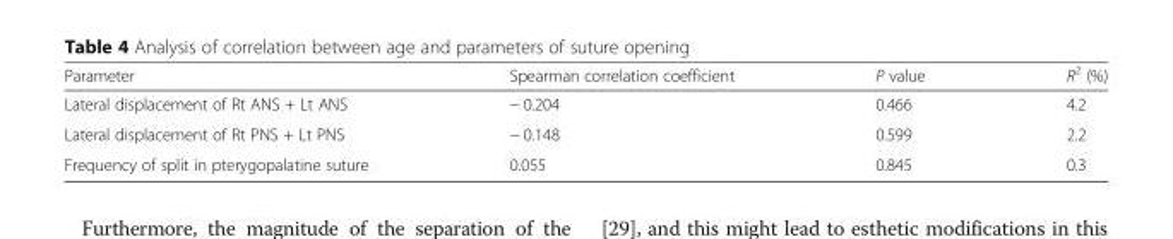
<table><thead><tr><td>Parameter</td><td>Spearman correlation coefficient</td><td>P value</td><td>R<sup>2</sup> (%)</td></tr></thead><tbody><tr><td>Lateral displacement of Rt ANS + Lt ANS</td><td>− 0.204</td><td>0.466</td><td>4.2</td></tr><tr><td>Lateral displacement of Rt PNS + Lt PNS</td><td>− 0.148</td><td>0.599</td><td>2.2</td></tr><tr><td>Frequency of split in pterygopalatine suture</td><td>0.055</td><td>0.845</td><td>0.3</td></tr></tbody></table>